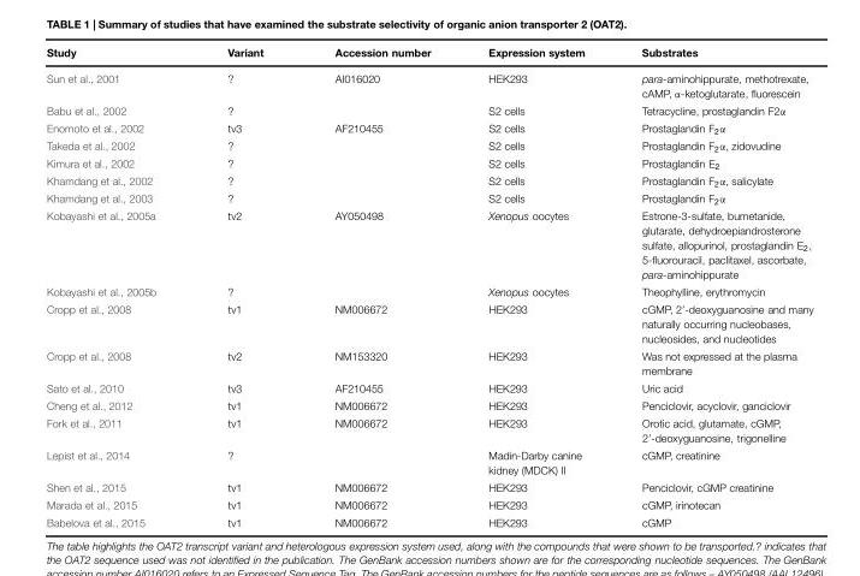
<table><thead><tr><td>Study</td><td>Variant</td><td>Accession number</td><td>Expression system</td><td>Substrates</td></tr></thead><tbody><tr><td>Sun et al., 2001</td><td>?</td><td>AI016020</td><td>HEK293</td><td>para-aminohippurate, methotrexate, cAMP, α-ketoglutarate, fluorescein</td></tr><tr><td>Babu et al., 2002</td><td>?</td><td></td><td>S2 cells</td><td>Tetracycline, prostaglandin F2α</td></tr><tr><td>Enomoto et al., 2002</td><td>tv3</td><td>AF210455</td><td>S2 cells</td><td>Prostaglandin F<sub>2</sub>α</td></tr><tr><td>Takeda et al., 2002</td><td>?</td><td></td><td>S2 cells</td><td>Prostaglandin F<sub>2</sub>α, zidovudine</td></tr><tr><td>Kimura et al., 2002</td><td>?</td><td></td><td>S2 cells</td><td>Prostaglandin E<sub>2</sub></td></tr><tr><td>Khamdang et al., 2002</td><td>?</td><td></td><td>S2 cells</td><td>Prostaglandin F<sub>2</sub>α, salicylate</td></tr><tr><td>Khamdang et al., 2003</td><td>?</td><td></td><td>S2 cells</td><td>Prostaglandin F<sub>2</sub>α</td></tr><tr><td>Kobayashi et al., 2005a</td><td>tv2</td><td>AY050498</td><td>Xenopus oocytes</td><td>Estrone-3-sulfate, bumetanide, glutarate, dehydroepiandrosterone sulfate, allopurinol, prostaglandin E<sub>2</sub>, 5-fluorouracil, paclitaxel, ascorbate, para-aminohippurate</td></tr><tr><td>Kobayashi et al., 2005b</td><td>?</td><td></td><td>Xenopus oocytes</td><td>Theophylline, erythromycin</td></tr><tr><td>Cropp et al., 2008</td><td>tv1</td><td>NM006672</td><td>HEK293</td><td>cGMP, 2’-deoxyguanosine and many naturally occurring nucleobases, nucleosides, and nucleotides</td></tr><tr><td>Cropp et al., 2008</td><td>tv2</td><td>NM153320</td><td>HEK293</td><td>Was not expressed at the plasma membrane</td></tr><tr><td>Sato et al., 2010</td><td>tv3</td><td>AF210455</td><td>HEK293</td><td>Uric acid</td></tr><tr><td>Cheng et al., 2012</td><td>tv1</td><td>NM006672</td><td>HEK293</td><td>Penciclovir, acyclovir, ganciclovir</td></tr><tr><td>Fork et al., 2011</td><td>tv1</td><td>NM006672</td><td>HEK293</td><td>Orotic acid, glutamate, cGMP, 2’-deoxyguanosine, trigonelline</td></tr><tr><td>Lepist et al., 2014</td><td>?</td><td></td><td>Madin-Darby canine kidney (MDCK) II</td><td>cGMP, creatinine</td></tr><tr><td>Shen et al., 2015</td><td>tv1</td><td>NM006672</td><td>HEK293</td><td>Penciclovir, cGMP creatinine</td></tr><tr><td>Marada et al., 2015</td><td>tv1</td><td>NM006672</td><td>HEK293</td><td>cGMP, irinotecan</td></tr><tr><td>Babelova et al., 2015</td><td>tv1</td><td>NM006672</td><td>HEK293</td><td>cGMP</td></tr></tbody></table>